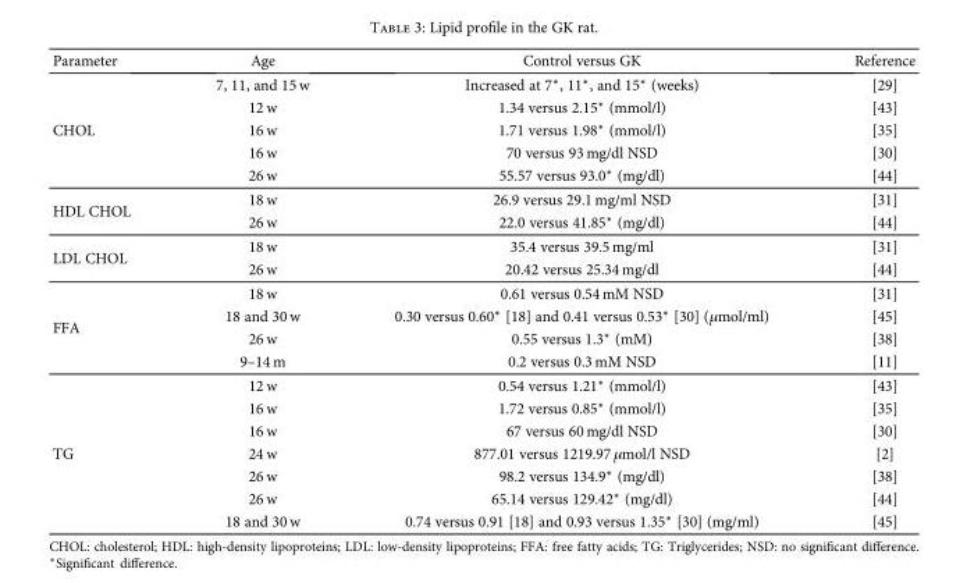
<table><thead><tr><td>Parameter</td><td>Age</td><td>Control versus GK</td><td>Reference</td></tr></thead><tbody><tr><td rowspan="5">CHOL</td><td>7, 11, and 15 w</td><td>Increased at 7∗, 11∗, and 15∗ (weeks)</td><td>[29]</td></tr><tr><td>12 w</td><td>1.34 versus 2.15∗ (mmol/l)</td><td>[43]</td></tr><tr><td>16 w</td><td>1.71 versus 1.98∗ (mmol/l)</td><td>[35]</td></tr><tr><td>16 w</td><td>70 versus 93 mg/dl NSD</td><td>[30]</td></tr><tr><td>26 w</td><td>55.57 versus 93.0∗ (mg/dl)</td><td>[44]</td></tr><tr><td rowspan="2">HDL CHOL</td><td>18 w</td><td>26.9 versus 29.1 mg/ml NSD</td><td>[31]</td></tr><tr><td>26 w</td><td>22.0 versus 41.85∗ (mg/dl)</td><td>[44]</td></tr><tr><td rowspan="2">LDL CHOL</td><td>18 w</td><td>35.4 versus 39.5 mg/ml</td><td>[31]</td></tr><tr><td>26 w</td><td>20.42 versus 25.34 mg/dl</td><td>[44]</td></tr><tr><td rowspan="4">FFA</td><td>18 w</td><td>0.61 versus 0.54 mM NSD</td><td>[31]</td></tr><tr><td>18 and 30 w</td><td>0.30 versus 0.60∗ [18] and 0.41 versus 0.53∗ [30] (μmol/ml)</td><td>[45]</td></tr><tr><td>26 w</td><td>0.55 versus 1.3∗ (mM)</td><td>[38]</td></tr><tr><td>9–14 m</td><td>0.2 versus 0.3 mM NSD</td><td>[11]</td></tr><tr><td rowspan="7">TG</td><td>12 w</td><td>0.54 versus 1.21∗ (mmol/l)</td><td>[43]</td></tr><tr><td>16 w</td><td>1.72 versus 0.85∗ (mmol/l)</td><td>[35]</td></tr><tr><td>16 w</td><td>67 versus 60 mg/dl NSD</td><td>[30]</td></tr><tr><td>24 w</td><td>877.01 versus 1219.97 μmol/l NSD</td><td>[2]</td></tr><tr><td>26 w</td><td>98.2 versus 134.9∗ (mg/dl)</td><td>[38]</td></tr><tr><td>26 w</td><td>65.14 versus 129.42∗ (mg/dl)</td><td>[44]</td></tr><tr><td>18 and 30 w</td><td>0.74 versus 0.91 [18] and 0.93 versus 1.35∗ [30] (mg/ml)</td><td>[45]</td></tr></tbody></table>